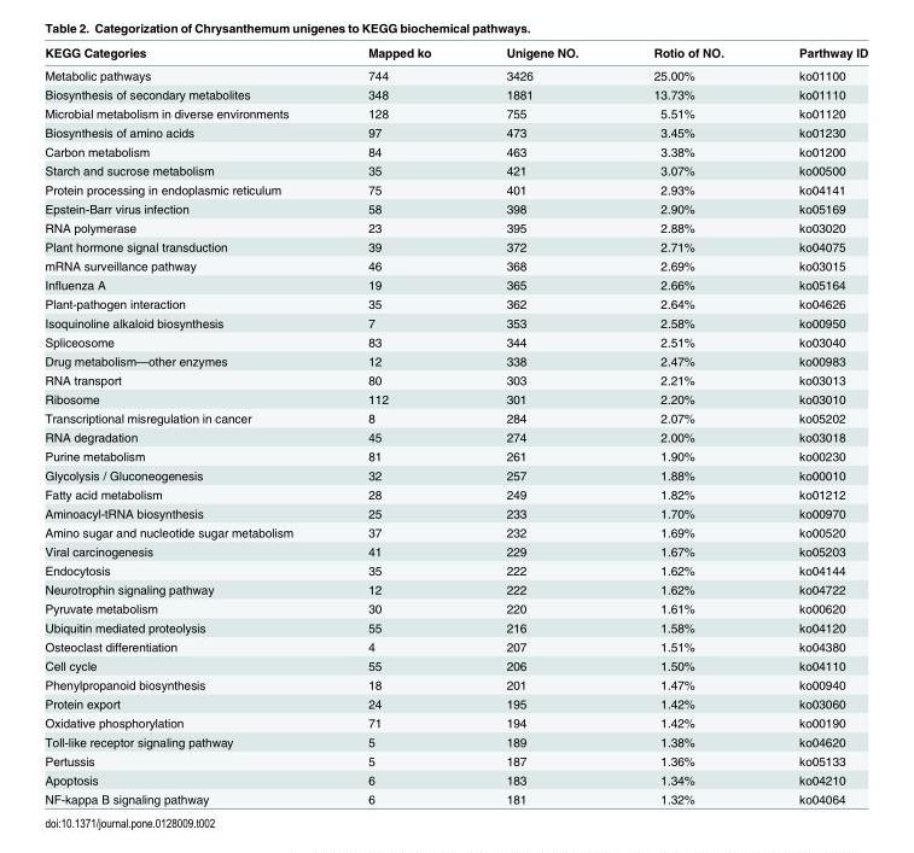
<table><thead><tr><td>KEGG Categories</td><td>Mapped ko</td><td>Unigene NO.</td><td>Rotio of NO.</td><td>Parthway ID</td></tr></thead><tbody><tr><td>Metabolic pathways</td><td>744</td><td>3426</td><td>25.00%</td><td>ko01100</td></tr><tr><td>Biosynthesis of secondary metabolites</td><td>348</td><td>1881</td><td>13.73%</td><td>ko01110</td></tr><tr><td>Microbial metabolism in diverse environments</td><td>128</td><td>755</td><td>5.51%</td><td>ko01120</td></tr><tr><td>Biosynthesis of amino acids</td><td>97</td><td>473</td><td>3.45%</td><td>ko01230</td></tr><tr><td>Carbon metabolism</td><td>84</td><td>463</td><td>3.38%</td><td>ko01200</td></tr><tr><td>Starch and sucrose metabolism</td><td>35</td><td>421</td><td>3.07%</td><td>ko00500</td></tr><tr><td>Protein processing in endoplasmic reticulum</td><td>75</td><td>401</td><td>2.93%</td><td>ko04141</td></tr><tr><td>Epstein-Barr virus infection</td><td>58</td><td>398</td><td>2.90%</td><td>ko05169</td></tr><tr><td>RNA polymerase</td><td>23</td><td>395</td><td>2.88%</td><td>ko03020</td></tr><tr><td>Plant hormone signal transduction</td><td>39</td><td>372</td><td>2.71%</td><td>ko04075</td></tr><tr><td>mRNA surveillance pathway</td><td>46</td><td>368</td><td>2.69%</td><td>ko03015</td></tr><tr><td>Influenza A</td><td>19</td><td>365</td><td>2.66%</td><td>ko05164</td></tr><tr><td>Plant-pathogen interaction</td><td>35</td><td>362</td><td>2.64%</td><td>ko04626</td></tr><tr><td>Isoquinoline alkaloid biosynthesis</td><td>7</td><td>353</td><td>2.58%</td><td>ko00950</td></tr><tr><td>Spliceosome</td><td>83</td><td>344</td><td>2.51%</td><td>ko03040</td></tr><tr><td>Drug metabolism—other enzymes</td><td>12</td><td>338</td><td>2.47%</td><td>ko00983</td></tr><tr><td>RNA transport</td><td>80</td><td>303</td><td>2.21%</td><td>ko03013</td></tr><tr><td>Ribosome</td><td>112</td><td>301</td><td>2.20%</td><td>ko03010</td></tr><tr><td>Transcriptional misregulation in cancer</td><td>8</td><td>284</td><td>2.07%</td><td>ko05202</td></tr><tr><td>RNA degradation</td><td>45</td><td>274</td><td>2.00%</td><td>ko03018</td></tr><tr><td>Purine metabolism</td><td>81</td><td>261</td><td>1.90%</td><td>ko00230</td></tr><tr><td>Glycolysis / Gluconeogenesis</td><td>32</td><td>257</td><td>1.88%</td><td>ko00010</td></tr><tr><td>Fatty acid metabolism</td><td>28</td><td>249</td><td>1.82%</td><td>ko01212</td></tr><tr><td>Aminoacyl-tRNA biosynthesis</td><td>25</td><td>233</td><td>1.70%</td><td>ko00970</td></tr><tr><td>Amino sugar and nucleotide sugar metabolism</td><td>37</td><td>232</td><td>1.69%</td><td>ko00520</td></tr><tr><td>Viral carcinogenesis</td><td>41</td><td>229</td><td>1.67%</td><td>ko05203</td></tr><tr><td>Endocytosis</td><td>35</td><td>222</td><td>1.62%</td><td>ko04144</td></tr><tr><td>Neurotrophin signaling pathway</td><td>12</td><td>222</td><td>1.62%</td><td>ko04722</td></tr><tr><td>Pyruvate metabolism</td><td>30</td><td>220</td><td>1.61%</td><td>ko00620</td></tr><tr><td>Ubiquitin mediated proteolysis</td><td>55</td><td>216</td><td>1.58%</td><td>ko04120</td></tr><tr><td>Osteoclast differentiation</td><td>4</td><td>207</td><td>1.51%</td><td>ko04380</td></tr><tr><td>Cell cycle</td><td>55</td><td>206</td><td>1.50%</td><td>ko04110</td></tr><tr><td>Phenylpropanoid biosynthesis</td><td>18</td><td>201</td><td>1.47%</td><td>ko00940</td></tr><tr><td>Protein export</td><td>24</td><td>195</td><td>1.42%</td><td>ko03060</td></tr><tr><td>Oxidative phosphorylation</td><td>71</td><td>194</td><td>1.42%</td><td>ko00190</td></tr><tr><td>Toll-like receptor signaling pathway</td><td>5</td><td>189</td><td>1.38%</td><td>ko04620</td></tr><tr><td>Pertussis</td><td>5</td><td>187</td><td>1.36%</td><td>ko05133</td></tr><tr><td>Apoptosis</td><td>6</td><td>183</td><td>1.34%</td><td>ko04210</td></tr><tr><td>NF-kappa B signaling pathway</td><td>6</td><td>181</td><td>1.32%</td><td>ko04064</td></tr></tbody></table>